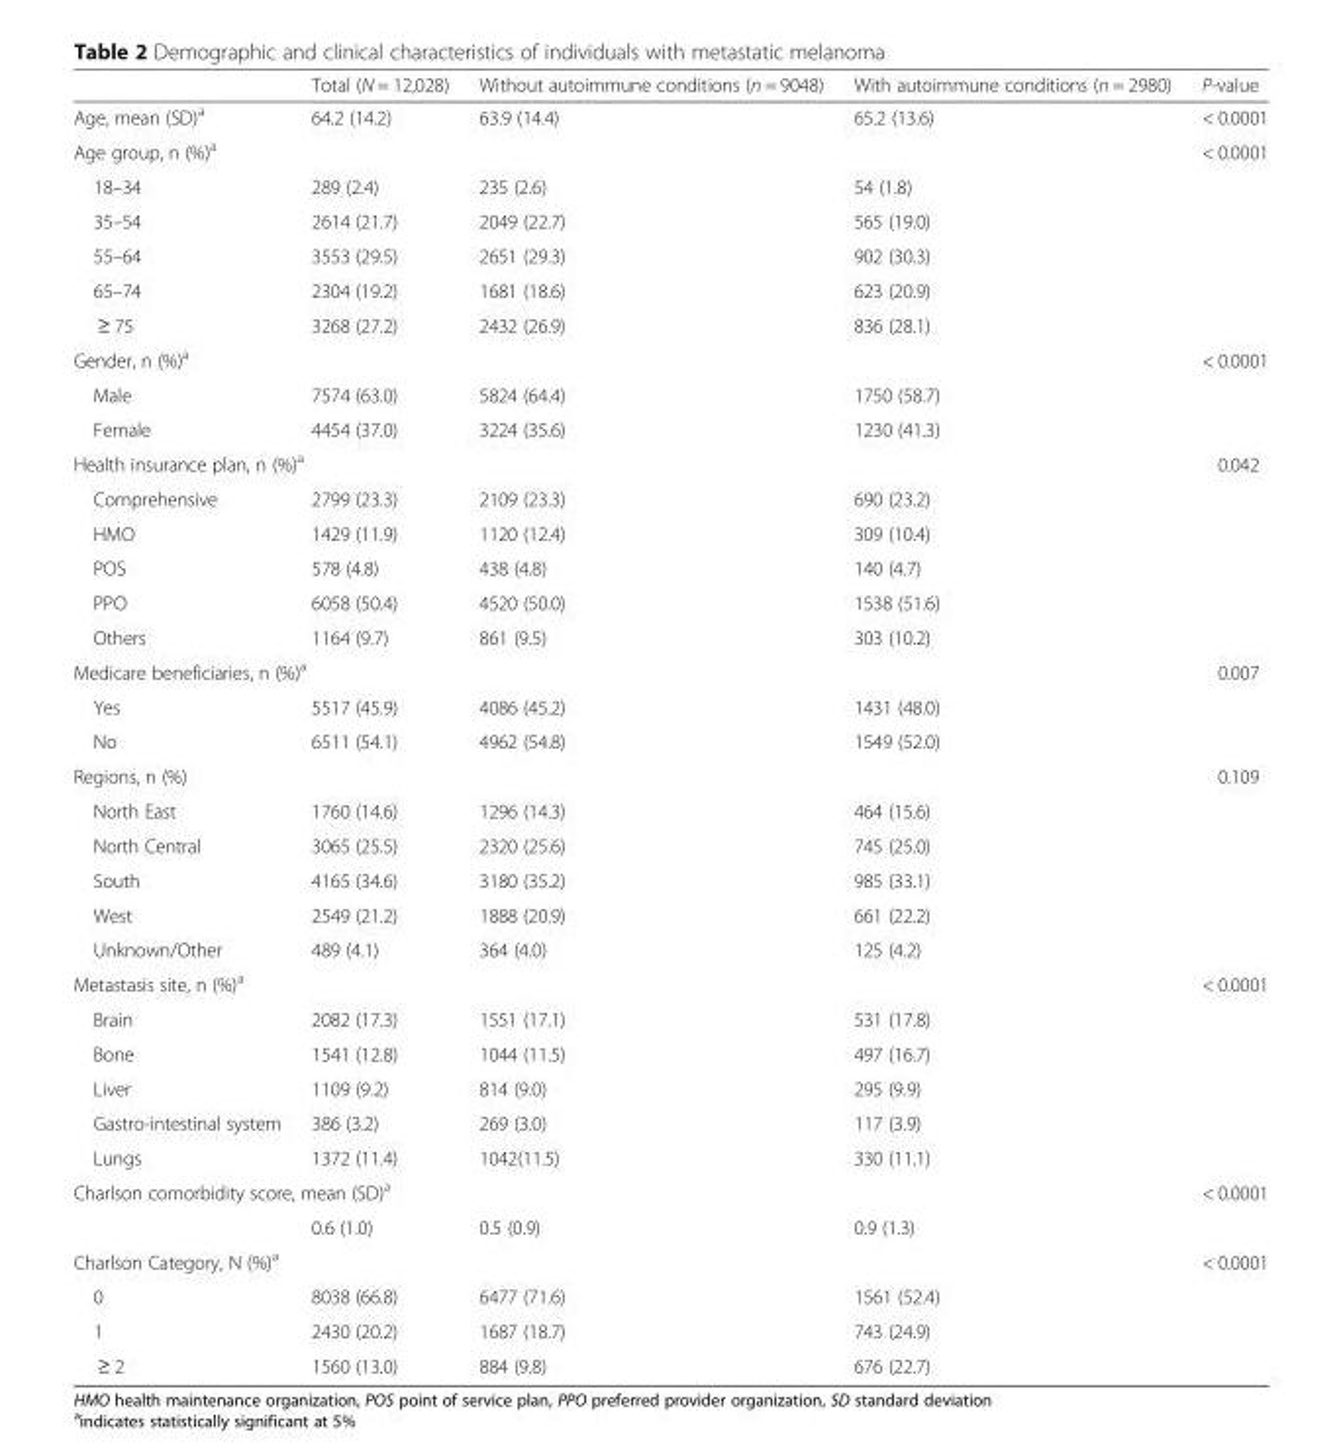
<table><thead><tr><td></td><td>Total (N = 12,028)</td><td>Without autoimmune conditions (n = 9048)</td><td>With autoimmune conditions (n = 2980)</td><td>P-value</td></tr></thead><tbody><tr><td>Age, mean (SD)<sup>a</sup></td><td>64.2 (14.2)</td><td>63.9 (14.4)</td><td>65.2 (13.6)</td><td>&lt; 0.0001</td></tr><tr><td>Age group, n (%)<sup>a</sup></td><td></td><td></td><td></td><td>&lt; 0.0001</td></tr><tr><td>18–34</td><td>289 (2.4)</td><td>235 (2.6)</td><td>54 (1.8)</td><td></td></tr><tr><td>35–54</td><td>2614 (21.7)</td><td>2049 (22.7)</td><td>565 (19.0)</td><td></td></tr><tr><td>55–64</td><td>3553 (29.5)</td><td>2651 (29.3)</td><td>902 (30.3)</td><td></td></tr><tr><td>65–74</td><td>2304 (19.2)</td><td>1681 (18.6)</td><td>623 (20.9)</td><td></td></tr><tr><td>≥ 75</td><td>3268 (27.2)</td><td>2432 (26.9)</td><td>836 (28.1)</td><td></td></tr><tr><td>Gender, n (%)<sup>a</sup></td><td></td><td></td><td></td><td>&lt; 0.0001</td></tr><tr><td>Male</td><td>7574 (63.0)</td><td>5824 (64.4)</td><td>1750 (58.7)</td><td></td></tr><tr><td>Female</td><td>4454 (37.0)</td><td>3224 (35.6)</td><td>1230 (41.3)</td><td></td></tr><tr><td colspan="2">Health insurance plan, n (%)<sup>a</sup></td><td></td><td></td><td>0.042</td></tr><tr><td>Comprehensive</td><td>2799 (23.3)</td><td>2109 (23.3)</td><td>690 (23.2)</td><td></td></tr><tr><td>HMO</td><td>1429 (11.9)</td><td>1120 (12.4)</td><td>309 (10.4)</td><td></td></tr><tr><td>POS</td><td>578 (4.8)</td><td>438 (4.8)</td><td>140 (4.7)</td><td></td></tr><tr><td>PPO</td><td>6058 (50.4)</td><td>4520 (50.0)</td><td>1538 (51.6)</td><td></td></tr><tr><td>Others</td><td>1164 (9.7)</td><td>861 (9.5)</td><td>303 (10.2)</td><td></td></tr><tr><td colspan="2">Medicare beneficiaries, n (%)<sup>a</sup></td><td></td><td></td><td>0.007</td></tr><tr><td>Yes</td><td>5517 (45.9)</td><td>4086 (45.2)</td><td>1431 (48.0)</td><td></td></tr><tr><td>No</td><td>6511 (54.1)</td><td>4962 (54.8)</td><td>1549 (52.0)</td><td></td></tr><tr><td>Regions, n (%)</td><td></td><td></td><td></td><td>0.109</td></tr><tr><td>North East</td><td>1760 (14.6)</td><td>1296 (14.3)</td><td>464 (15.6)</td><td></td></tr><tr><td>North Central</td><td>3065 (25.5)</td><td>2320 (25.6)</td><td>745 (25.0)</td><td></td></tr><tr><td>South</td><td>4165 (34.6)</td><td>3180 (35.2)</td><td>985 (33.1)</td><td></td></tr><tr><td>West</td><td>2549 (21.2)</td><td>1888 (20.9)</td><td>661 (22.2)</td><td></td></tr><tr><td>Unknown/Other</td><td>489 (4.1)</td><td>364 (4.0)</td><td>125 (4.2)</td><td></td></tr><tr><td colspan="2">Metastasis site, n (%)<sup>a</sup></td><td></td><td></td><td>&lt; 0.0001</td></tr><tr><td>Brain</td><td>2082 (17.3)</td><td>1551 (17.1)</td><td>531 (17.8)</td><td></td></tr><tr><td>Bone</td><td>1541 (12.8)</td><td>1044 (11.5)</td><td>497 (16.7)</td><td></td></tr><tr><td>Liver</td><td>1109 (9.2)</td><td>814 (9.0)</td><td>295 (9.9)</td><td></td></tr><tr><td>Gastro-intestinal system</td><td>386 (3.2)</td><td>269 (3.0)</td><td>117 (3.9)</td><td></td></tr><tr><td>Lungs</td><td>1372 (11.4)</td><td>1042(11.5)</td><td>330 (11.1)</td><td></td></tr><tr><td colspan="3">Charlson comorbidity score, mean (SD)<sup>a</sup></td><td></td><td>&lt; 0.0001</td></tr><tr><td></td><td>0.6 (1.0)</td><td>0.5 (0.9)</td><td>0.9 (1.3)</td><td></td></tr><tr><td colspan="2">Charlson Category, N (%)<sup>a</sup></td><td></td><td></td><td>&lt; 0.0001</td></tr><tr><td>0</td><td>8038 (66.8)</td><td>6477 (71.6)</td><td>1561 (52.4)</td><td></td></tr><tr><td>1</td><td>2430 (20.2)</td><td>1687 (18.7)</td><td>743 (24.9)</td><td></td></tr><tr><td>≥ 2</td><td>1560 (13.0)</td><td>884 (9.8)</td><td>676 (22.7)</td><td></td></tr></tbody></table>